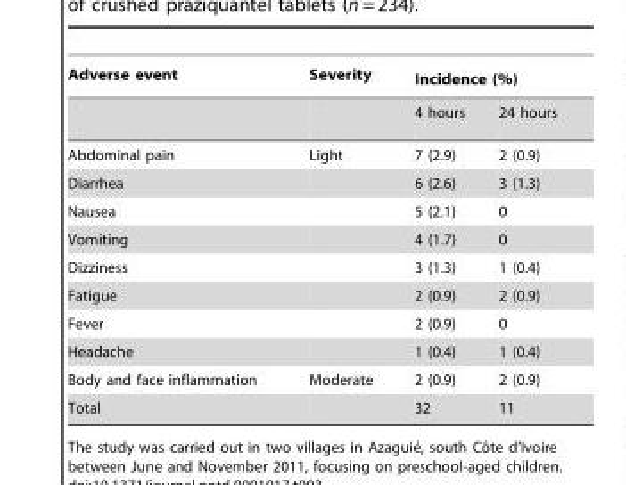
<table><thead><tr><td rowspan="2">Adverse event</td><td rowspan="2">Severity</td><td colspan="2">Incidence (%)</td></tr><tr><td>4 hours</td><td>24 hours</td></tr></thead><tbody><tr><td>Abdominal pain</td><td>Light</td><td>7 (2.9)</td><td>2 (0.9)</td></tr><tr><td>Diarrhea</td><td></td><td>6 (2.6)</td><td>3 (1.3)</td></tr><tr><td>Nausea</td><td></td><td>5 (2.1)</td><td>0</td></tr><tr><td>Vomiting</td><td></td><td>4 (1.7)</td><td>0</td></tr><tr><td>Dizziness</td><td></td><td>3 (1.3)</td><td>1 (0.4)</td></tr><tr><td>Fatigue</td><td></td><td>2 (0.9)</td><td>2 (0.9)</td></tr><tr><td>Fever</td><td></td><td>2 (0.9)</td><td>0</td></tr><tr><td>Headache</td><td></td><td>1 (0.4)</td><td>1 (0.4)</td></tr><tr><td>Body and face inflammation</td><td>Moderate</td><td>2 (0.9)</td><td>2 (0.9)</td></tr><tr><td>Total</td><td></td><td>32</td><td>11</td></tr></tbody></table>